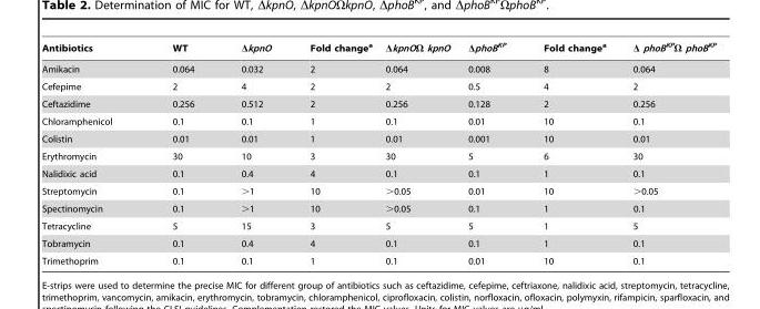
<table><thead><tr><td>Antibiotics</td><td>WT</td><td>ΔkpnO</td><td>Fold change<sup>a</sup></td><td>ΔkpnOΩ kpnO</td><td>ΔphoB<sup>KP</sup></td><td>Fold change<sup>a</sup></td><td>Δ phoB<sup>KP</sup>Ω phoB<sup>KP</sup></td></tr></thead><tbody><tr><td>Amikacin</td><td>0.064</td><td>0.032</td><td>2</td><td>0.064</td><td>0.008</td><td>8</td><td>0.064</td></tr><tr><td>Cefepime</td><td>2</td><td>4</td><td>2</td><td>2</td><td>0.5</td><td>4</td><td>2</td></tr><tr><td>Ceftazidime</td><td>0.256</td><td>0.512</td><td>2</td><td>0.256</td><td>0.128</td><td>2</td><td>0.256</td></tr><tr><td>Chloramphenicol</td><td>0.1</td><td>0.1</td><td>1</td><td>0.1</td><td>0.01</td><td>10</td><td>0.1</td></tr><tr><td>Colistin</td><td>0.01</td><td>0.01</td><td>1</td><td>0.01</td><td>0.001</td><td>10</td><td>0.01</td></tr><tr><td>Erythromycin</td><td>30</td><td>10</td><td>3</td><td>30</td><td>5</td><td>6</td><td>30</td></tr><tr><td>Nalidixic acid</td><td>0.1</td><td>0.4</td><td>4</td><td>0.1</td><td>0.1</td><td>1</td><td>0.1</td></tr><tr><td>Streptomycin</td><td>0.1</td><td>&gt;1</td><td>10</td><td>&gt;0.05</td><td>0.01</td><td>10</td><td>&gt;0.05</td></tr><tr><td>Spectinomycin</td><td>0.1</td><td>&gt;1</td><td>10</td><td>&gt;0.05</td><td>0.1</td><td>1</td><td>0.1</td></tr><tr><td>Tetracycline</td><td>5</td><td>15</td><td>3</td><td>5</td><td>5</td><td>1</td><td>5</td></tr><tr><td>Tobramycin</td><td>0.1</td><td>0.4</td><td>4</td><td>0.1</td><td>0.1</td><td>1</td><td>0.1</td></tr><tr><td>Trimethoprim</td><td>0.1</td><td>0.1</td><td>1</td><td>0.1</td><td>0.01</td><td>10</td><td>0.1</td></tr></tbody></table>